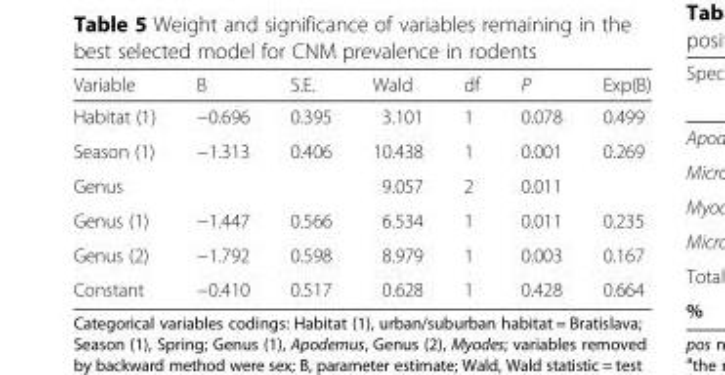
<table><thead><tr><td>Variable</td><td>B</td><td>S.E.</td><td>Wald</td><td>df</td><td>P</td><td>Exp(B)</td></tr></thead><tbody><tr><td>Habitat (1)</td><td>−0.696</td><td>0.395</td><td>3.101</td><td>1</td><td>0.078</td><td>0.499</td></tr><tr><td>Season (1)</td><td>−1.313</td><td>0.406</td><td>10.438</td><td>1</td><td>0.001</td><td>0.269</td></tr><tr><td>Genus</td><td></td><td></td><td>9.057</td><td>2</td><td>0.011</td><td></td></tr><tr><td>Genus (1)</td><td>−1.447</td><td>0.566</td><td>6.534</td><td>1</td><td>0.011</td><td>0.235</td></tr><tr><td>Genus (2)</td><td>−1.792</td><td>0.598</td><td>8.979</td><td>1</td><td>0.003</td><td>0.167</td></tr><tr><td>Constant</td><td>−0.410</td><td>0.517</td><td>0.628</td><td>1</td><td>0.428</td><td>0.664</td></tr></tbody></table>